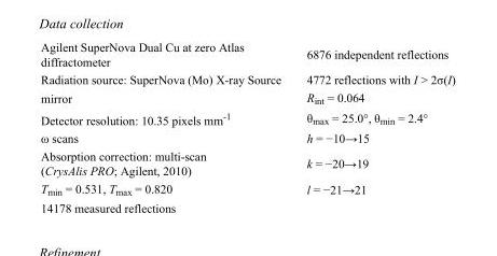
<table><tbody><tr><td>Agilent SuperNova Dual Cu at zero Atlas diffractometer</td><td>6876 independent reflections</td></tr><tr><td>Radiation source: SuperNova (Mo) X-ray Source</td><td>4772 reflections with I &gt; 2σ(I)</td></tr><tr><td>mirror</td><td>R<sub>int</sub> = 0.064</td></tr><tr><td>Detector resolution: 10.35 pixels mm<sup>-1</sup></td><td>θ<sub>max</sub> = 25.0°, θ<sub>min</sub> = 2.4°</td></tr><tr><td>ω scans</td><td>h = −10→15</td></tr><tr><td>Absorption correction: multi-scan (CrysAlis PRO; Agilent, 2010)</td><td>k = −20→19</td></tr><tr><td>T<sub>min</sub> = 0.531, T<sub>max</sub> = 0.820</td><td>l = −21→21</td></tr><tr><td>14178 measured reflections</td><td></td></tr></tbody></table>